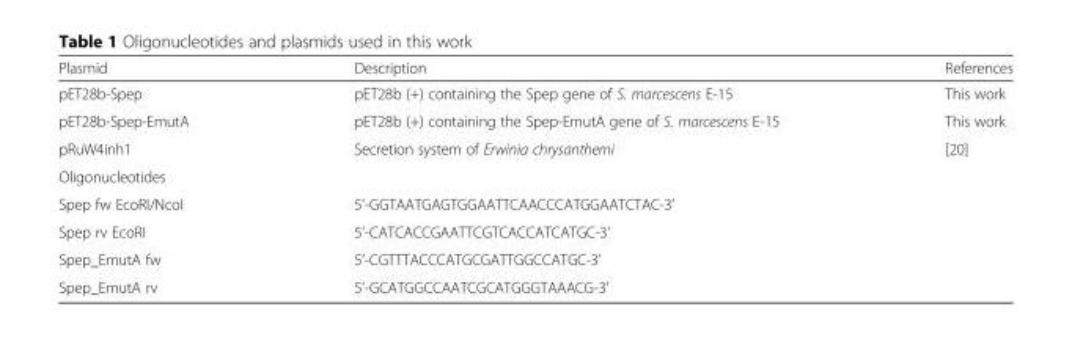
<table><thead><tr><td>Plasmid</td><td>Description</td><td>References</td></tr></thead><tbody><tr><td>pET28b-Spep</td><td>pET28b (+) containing the Spep gene of S. marcescens E-15</td><td>This work</td></tr><tr><td>pET28b-Spep-EmutA</td><td>pET28b (+) containing the Spep-EmutA gene of S. marcescens E-15</td><td>This work</td></tr><tr><td>pRuW4inh1</td><td>Secretion system of Erwinia chrysanthemi</td><td>[20]</td></tr><tr><td colspan="3">Oligonucleotides</td></tr><tr><td>Spep fw EcoRI/NcoI</td><td>5’-GGTAATGAGTGGAATTCAACCCATGGAATCTAC-3’</td><td></td></tr><tr><td>Spep rv EcoRI</td><td>5’-CATCACCGAATTCGTCACCATCATGC-3’</td><td></td></tr><tr><td>Spep_EmutA fw</td><td>5’-CGTTTACCCATGCGATTGGCCATGC-3’</td><td></td></tr><tr><td>Spep_EmutA rv</td><td>5’-GCATGGCCAATCGCATGGGTAAACG-3’</td><td></td></tr></tbody></table>